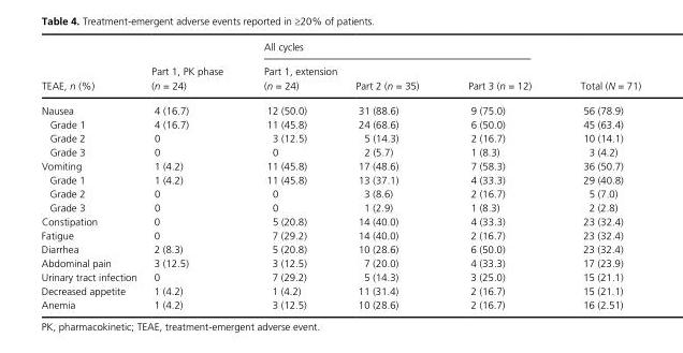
<table><thead><tr><td rowspan="2">TEAE, n (%)</td><td rowspan="2">Part 1, PK phase (n = 24)</td><td colspan="3">All cycles</td><td rowspan="2">Total (N = 71)</td></tr><tr><td>Part 1, extension (n = 24)</td><td>Part 2 (n = 35)</td><td>Part 3 (n = 12)</td></tr></thead><tbody><tr><td>Nausea</td><td>4 (16.7)</td><td>12 (50.0)</td><td>31 (88.6)</td><td>9 (75.0)</td><td>56 (78.9)</td></tr><tr><td>Grade 1</td><td>4 (16.7)</td><td>11 (45.8)</td><td>24 (68.6)</td><td>6 (50.0)</td><td>45 (63.4)</td></tr><tr><td>Grade 2</td><td>0</td><td>3 (12.5)</td><td>5 (14.3)</td><td>2 (16.7)</td><td>10 (14.1)</td></tr><tr><td>Grade 3</td><td>0</td><td>0</td><td>2 (5.7)</td><td>1 (8.3)</td><td>3 (4.2)</td></tr><tr><td>Vomiting</td><td>1 (4.2)</td><td>11 (45.8)</td><td>17 (48.6)</td><td>7 (58.3)</td><td>36 (50.7)</td></tr><tr><td>Grade 1</td><td>1 (4.2)</td><td>11 (45.8)</td><td>13 (37.1)</td><td>4 (33.3)</td><td>29 (40.8)</td></tr><tr><td>Grade 2</td><td>0</td><td>0</td><td>3 (8.6)</td><td>2 (16.7)</td><td>5 (7.0)</td></tr><tr><td>Grade 3</td><td>0</td><td>0</td><td>1 (2.9)</td><td>1 (8.3)</td><td>2 (2.8)</td></tr><tr><td>Constipation</td><td>0</td><td>5 (20.8)</td><td>14 (40.0)</td><td>4 (33.3)</td><td>23 (32.4)</td></tr><tr><td>Fatigue</td><td>0</td><td>7 (29.2)</td><td>14 (40.0)</td><td>2 (16.7)</td><td>23 (32.4)</td></tr><tr><td>Diarrhea</td><td>2 (8.3)</td><td>5 (20.8)</td><td>10 (28.6)</td><td>6 (50.0)</td><td>23 (32.4)</td></tr><tr><td>Abdominal pain</td><td>3 (12.5)</td><td>3 (12.5)</td><td>7 (20.0)</td><td>4 (33.3)</td><td>17 (23.9)</td></tr><tr><td>Urinary tract infection</td><td>0</td><td>7 (29.2)</td><td>5 (14.3)</td><td>3 (25.0)</td><td>15 (21.1)</td></tr><tr><td>Decreased appetite</td><td>1 (4.2)</td><td>1 (4.2)</td><td>11 (31.4)</td><td>2 (16.7)</td><td>15 (21.1)</td></tr><tr><td>Anemia</td><td>1 (4.2)</td><td>3 (12.5)</td><td>10 (28.6)</td><td>2 (16.7)</td><td>16 (2.51)</td></tr></tbody></table>